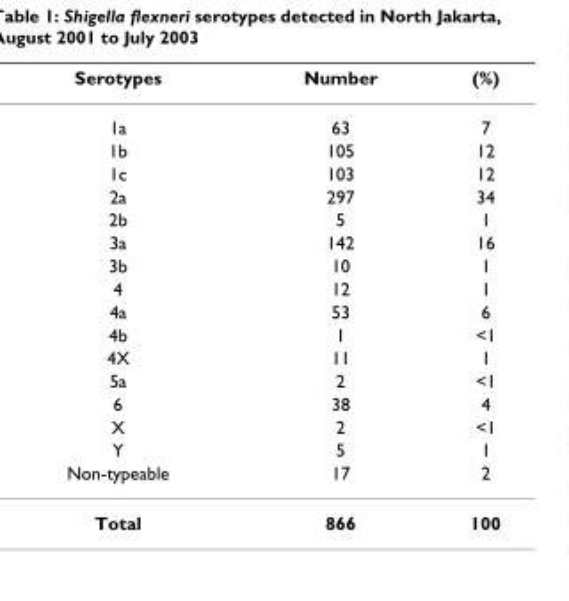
<table><thead><tr><td>Serotypes</td><td>Number</td><td>(%)</td></tr></thead><tbody><tr><td>1a</td><td>63</td><td>7</td></tr><tr><td>1b</td><td>105</td><td>12</td></tr><tr><td>1c</td><td>103</td><td>12</td></tr><tr><td>2a</td><td>297</td><td>34</td></tr><tr><td>2b</td><td>5</td><td>1</td></tr><tr><td>3a</td><td>142</td><td>16</td></tr><tr><td>3b</td><td>10</td><td>1</td></tr><tr><td>4</td><td>12</td><td>1</td></tr><tr><td>4a</td><td>53</td><td>6</td></tr><tr><td>4b</td><td>1</td><td>&lt;1</td></tr><tr><td>4X</td><td>11</td><td>1</td></tr><tr><td>5a</td><td>2</td><td>&lt;1</td></tr><tr><td>6</td><td>38</td><td>4</td></tr><tr><td>X</td><td>2</td><td>&lt;1</td></tr><tr><td>Y</td><td>5</td><td>1</td></tr><tr><td>Non-typeable</td><td>17</td><td>2</td></tr><tr><td>Total</td><td>866</td><td>100</td></tr></tbody></table>